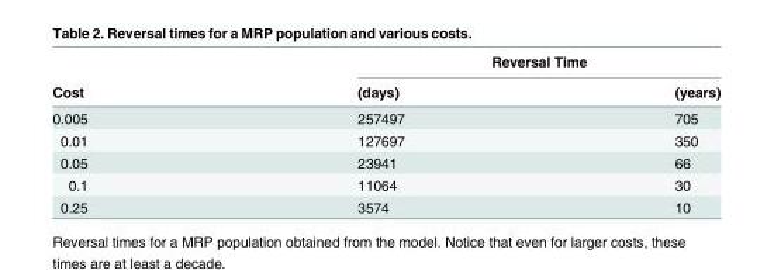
<table><thead><tr><td rowspan="2">Cost</td><td colspan="2">Reversal Time</td></tr><tr><td>(days)</td><td>(years)</td></tr></thead><tbody><tr><td>0.005</td><td>257497</td><td>705</td></tr><tr><td>0.01</td><td>127697</td><td>350</td></tr><tr><td>0.05</td><td>23941</td><td>66</td></tr><tr><td>0.1</td><td>11064</td><td>30</td></tr><tr><td>0.25</td><td>3574</td><td>10</td></tr></tbody></table>